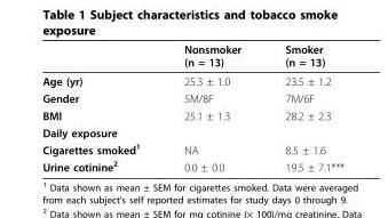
<table><thead><tr><td></td><td>Nonsmoker (n = 13)</td><td>Smoker (n = 13)</td></tr></thead><tbody><tr><td>Age (yr)</td><td>25.3 ± 1.0</td><td>23.5 ± 1.2</td></tr><tr><td>Gender</td><td>5M/8F</td><td>7M/6F</td></tr><tr><td>BMI</td><td>25.1 ± 1.3</td><td>28.2 ± 2.3</td></tr><tr><td colspan="3">Daily exposure</td></tr><tr><td>Cigarettes smoked<sup>1</sup></td><td>NA</td><td>8.5 ± 1.6</td></tr><tr><td>Urine cotinine<sup>2</sup></td><td>0.0 ± 0.0</td><td>19.5 ± 7.1***</td></tr></tbody></table>